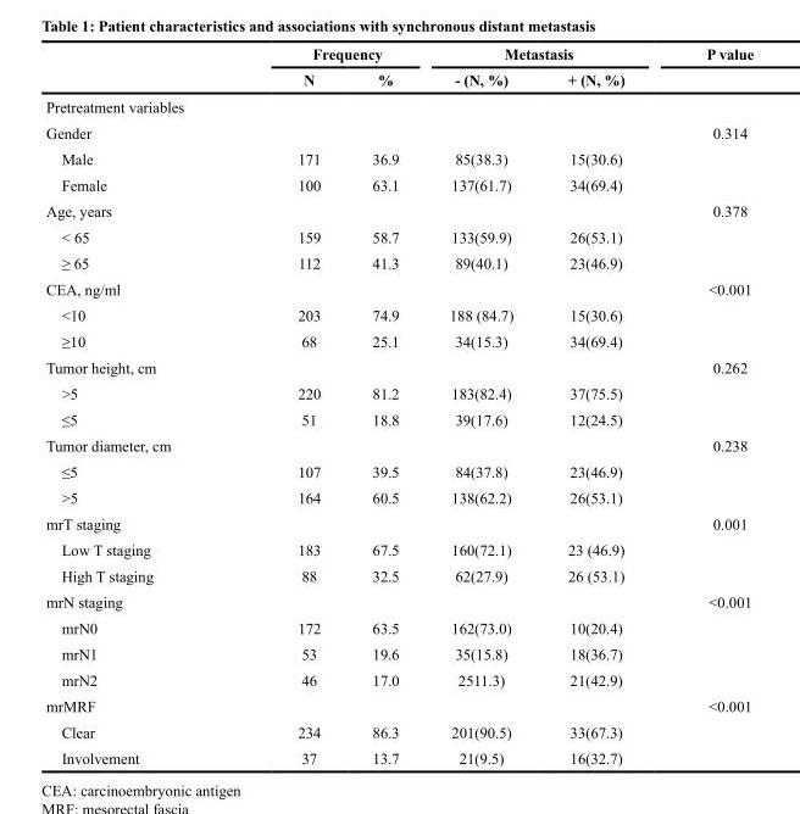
<table><thead><tr><td rowspan="2"></td><td colspan="2">Frequency</td><td colspan="2">Metastasis</td><td rowspan="2">P value</td></tr><tr><td>N</td><td>%</td><td>- (N, %)</td><td>+ (N, %)</td></tr></thead><tbody><tr><td colspan="6">Pretreatment variables</td></tr><tr><td>Gender</td><td></td><td></td><td></td><td></td><td>0.314</td></tr><tr><td>Male</td><td>171</td><td>36.9</td><td>85(38.3)</td><td>15(30.6)</td><td></td></tr><tr><td>Female</td><td>100</td><td>63.1</td><td>137(61.7)</td><td>34(69.4)</td><td></td></tr><tr><td>Age, years</td><td></td><td></td><td></td><td></td><td>0.378</td></tr><tr><td>&lt; 65</td><td>159</td><td>58.7</td><td>133(59.9)</td><td>26(53.1)</td><td></td></tr><tr><td>≥ 65</td><td>112</td><td>41.3</td><td>89(40.1)</td><td>23(46.9)</td><td></td></tr><tr><td>CEA, ng/ml</td><td></td><td></td><td></td><td></td><td>&lt;0.001</td></tr><tr><td>&lt;10</td><td>203</td><td>74.9</td><td>188 (84.7)</td><td>15(30.6)</td><td></td></tr><tr><td>≥10</td><td>68</td><td>25.1</td><td>34(15.3)</td><td>34(69.4)</td><td></td></tr><tr><td>Tumor height, cm</td><td></td><td></td><td></td><td></td><td>0.262</td></tr><tr><td>&gt;5</td><td>220</td><td>81.2</td><td>183(82.4)</td><td>37(75.5)</td><td></td></tr><tr><td>≤5</td><td>51</td><td>18.8</td><td>39(17.6)</td><td>12(24.5)</td><td></td></tr><tr><td>Tumor diameter, cm</td><td></td><td></td><td></td><td></td><td>0.238</td></tr><tr><td>≤5</td><td>107</td><td>39.5</td><td>84(37.8)</td><td>23(46.9)</td><td></td></tr><tr><td>&gt;5</td><td>164</td><td>60.5</td><td>138(62.2)</td><td>26(53.1)</td><td></td></tr><tr><td>mrT staging</td><td></td><td></td><td></td><td></td><td>0.001</td></tr><tr><td>Low T staging</td><td>183</td><td>67.5</td><td>160(72.1)</td><td>23 (46.9)</td><td></td></tr><tr><td>High T staging</td><td>88</td><td>32.5</td><td>62(27.9)</td><td>26 (53.1)</td><td></td></tr><tr><td>mrN staging</td><td></td><td></td><td></td><td></td><td>&lt;0.001</td></tr><tr><td>mrN0</td><td>172</td><td>63.5</td><td>162(73.0)</td><td>10(20.4)</td><td></td></tr><tr><td>mrN1</td><td>53</td><td>19.6</td><td>35(15.8)</td><td>18(36.7)</td><td></td></tr><tr><td>mrN2</td><td>46</td><td>17.0</td><td>2511.3)</td><td>21(42.9)</td><td></td></tr><tr><td>mrMRF</td><td></td><td></td><td></td><td></td><td>&lt;0.001</td></tr><tr><td>Clear</td><td>234</td><td>86.3</td><td>201(90.5)</td><td>33(67.3)</td><td></td></tr><tr><td>Involvement</td><td>37</td><td>13.7</td><td>21(9.5)</td><td>16(32.7)</td><td></td></tr></tbody></table>